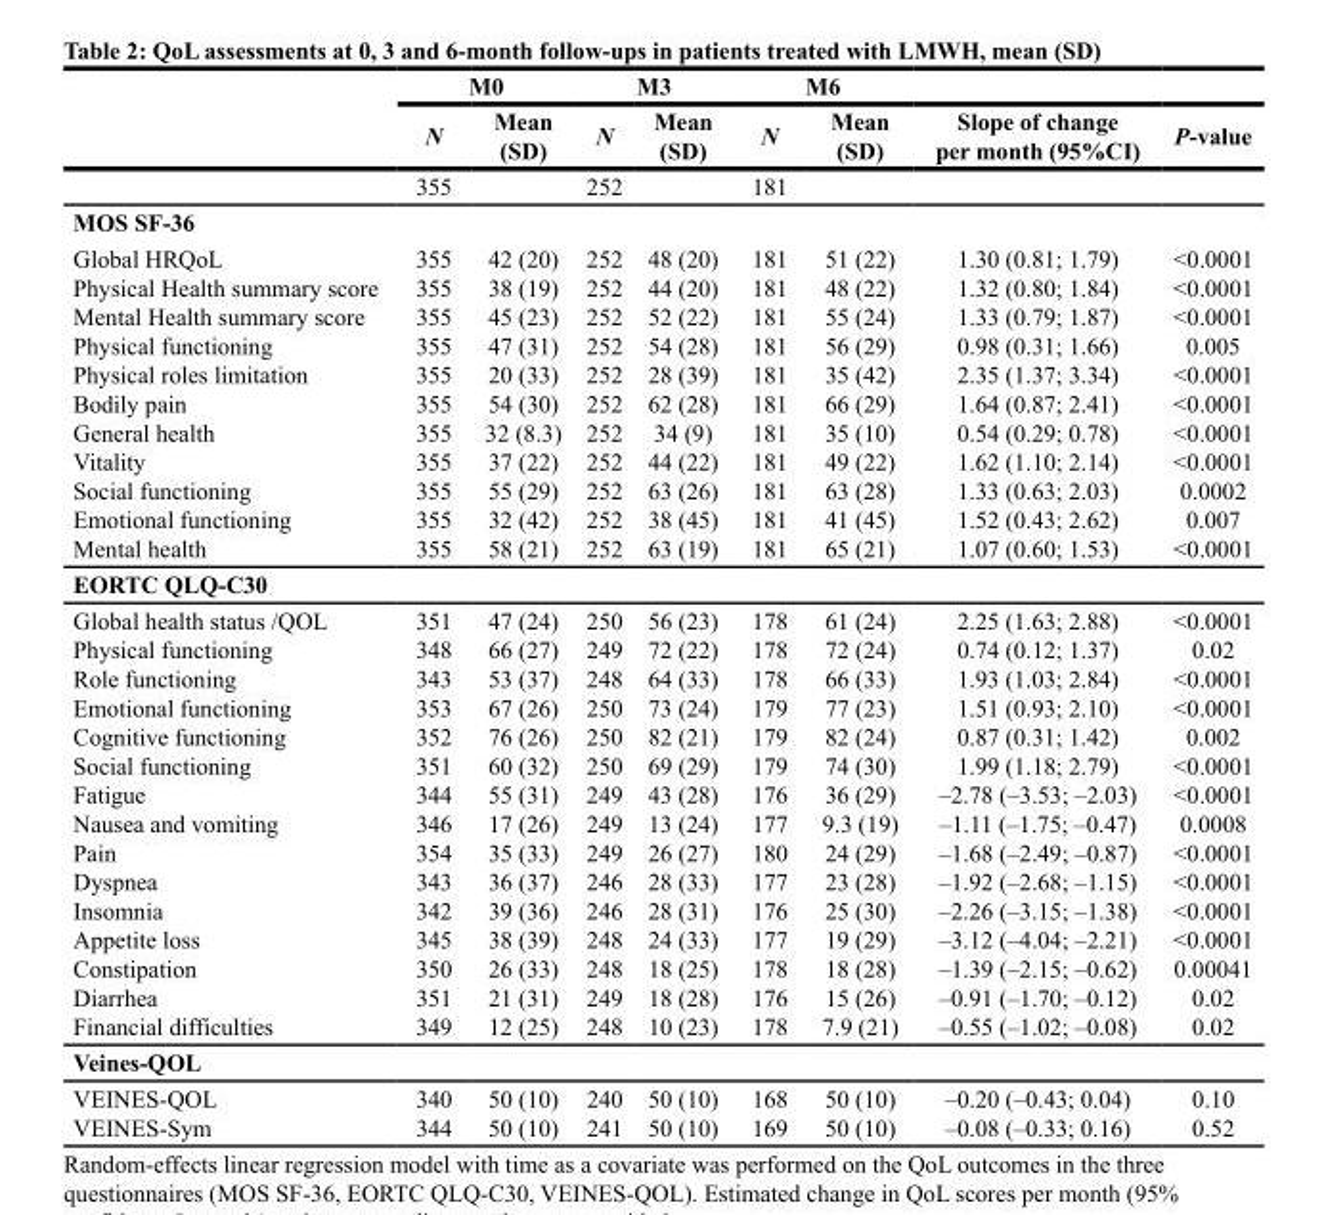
<table><thead><tr><td rowspan="2"></td><td colspan="2">M0</td><td colspan="2">M3</td><td colspan="2">M6</td><td rowspan="2">Slope of change per month (95%CI)</td><td rowspan="2">P-value</td></tr><tr><td>N</td><td>Mean (SD)</td><td>N</td><td>Mean (SD)</td><td>N</td><td>Mean (SD)</td></tr></thead><tbody><tr><td></td><td>355</td><td></td><td>252</td><td></td><td>181</td><td></td><td></td><td></td></tr><tr><td colspan="9">MOS SF-36</td></tr><tr><td>Global HRQoL Physical Health summary score Mental Health summary score Physical functioning Physical roles limitation Bodily pain General health Vitality Social functioning Emotional functioning Mental health</td><td>355 355 355 355 355 355 355 355 355 355 355</td><td>42 (20) 38 (19) 45 (23) 47 (31) 20 (33) 54 (30) 32 (8.3) 37 (22) 55 (29) 32 (42) 58 (21)</td><td>252 252 252 252 252 252 252 252 252 252 252</td><td>48 (20) 44 (20) 52 (22) 54 (28) 28 (39) 62 (28) 34 (9) 44 (22) 63 (26) 38 (45) 63 (19)</td><td>181 181 181 181 181 181 181 181 181 181 181</td><td>51 (22) 48 (22) 55 (24) 56 (29) 35 (42) 66 (29) 35 (10) 49 (22) 63 (28) 41 (45) 65 (21)</td><td>1.30 (0.81; 1.79) 1.32 (0.80; 1.84) 1.33 (0.79; 1.87) 0.98 (0.31; 1.66) 2.35 (1.37; 3.34) 1.64 (0.87; 2.41) 0.54 (0.29; 0.78) 1.62 (1.10; 2.14) 1.33 (0.63; 2.03) 1.52 (0.43; 2.62) 1.07 (0.60; 1.53)</td><td>&lt;0.0001 &lt;0.0001 &lt;0.0001 0.005 &lt;0.0001 &lt;0.0001 &lt;0.0001 &lt;0.0001 0.0002 0.007 &lt;0.0001</td></tr><tr><td colspan="9">EORTC QLQ-C30</td></tr><tr><td>Global health status /QOL Physical functioning Role functioning Emotional functioning Cognitive functioning Social functioning Fatigue Nausea and vomiting Pain Dyspnea Insomnia Appetite loss Constipation Diarrhea Financial difficulties</td><td>351 348 343 353 352 351 344 346 354 343 342 345 350 351 349</td><td>47 (24) 66 (27) 53 (37) 67 (26) 76 (26) 60 (32) 55 (31) 17 (26) 35 (33) 36 (37) 39 (36) 38 (39) 26 (33) 21 (31) 12 (25)</td><td>250 249 248 250 250 250 249 249 249 246 246 248 248 249 248</td><td>56 (23) 72 (22) 64 (33) 73 (24) 82 (21) 69 (29) 43 (28) 13 (24) 26 (27) 28 (33) 28 (31) 24 (33) 18 (25) 18 (28) 10 (23)</td><td>178 178 178 179 179 179 176 177 180 177 176 177 178 176 178</td><td>61 (24) 72 (24) 66 (33) 77 (23) 82 (24) 74 (30) 36 (29) 9.3 (19) 24 (29) 23 (28) 25 (30) 19 (29) 18 (28) 15 (26) 7.9 (21)</td><td>2.25 (1.63; 2.88) 0.74 (0.12; 1.37) 1.93 (1.03; 2.84) 1.51 (0.93; 2.10) 0.87 (0.31; 1.42) 1.99 (1.18; 2.79) –2.78 (–3.53; –2.03) –1.11 (–1.75; –0.47) –1.68 (–2.49; –0.87) –1.92 (–2.68; –1.15) –2.26 (–3.15; –1.38) –3.12 (–4.04; –2.21) –1.39 (–2.15; –0.62) –0.91 (–1.70; –0.12) –0.55 (–1.02; –0.08)</td><td>&lt;0.0001 0.02 &lt;0.0001 &lt;0.0001 0.002 &lt;0.0001 &lt;0.0001 0.0008 &lt;0.0001 &lt;0.0001 &lt;0.0001 &lt;0.0001 0.00041 0.02 0.02</td></tr><tr><td colspan="9">Veines-QOL</td></tr><tr><td>VEINES-QOL VEINES-Sym</td><td>340 344</td><td>50 (10) 50 (10)</td><td>240 241</td><td>50 (10) 50 (10)</td><td>168 169</td><td>50 (10) 50 (10)</td><td>–0.20 (–0.43; 0.04) –0.08 (–0.33; 0.16)</td><td>0.10 0.52</td></tr></tbody></table>